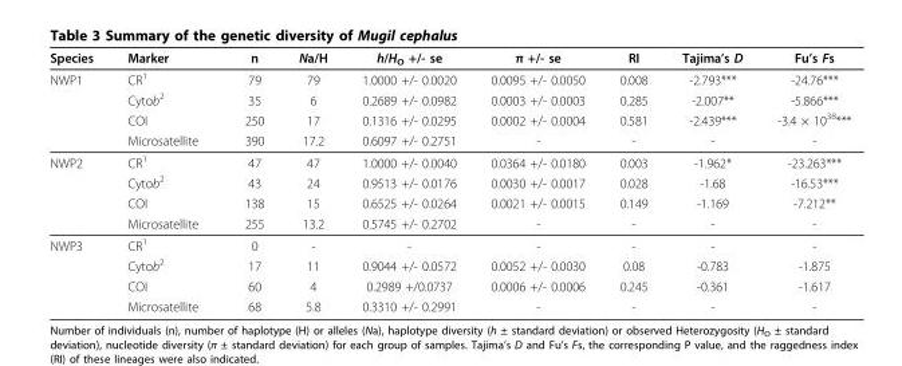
<table><thead><tr><td>Species</td><td>Marker</td><td>n</td><td>Na/H</td><td>h/H<sub>O</sub> +/- se</td><td>π +/- se</td><td>RI</td><td>Tajima’s D</td><td>Fu’s Fs</td></tr></thead><tbody><tr><td rowspan="4">NWP1</td><td>CR<sup>1</sup></td><td>79</td><td>79</td><td>1.0000 +/- 0.0020</td><td>0.0095 +/- 0.0050</td><td>0.008</td><td>-2.793***</td><td>-24.76***</td></tr><tr><td>Cytob<sup>2</sup></td><td>35</td><td>6</td><td>0.2689 +/- 0.0982</td><td>0.0003 +/- 0.0003</td><td>0.285</td><td>-2.007**</td><td>-5.866***</td></tr><tr><td>COI</td><td>250</td><td>17</td><td>0.1316 +/- 0.0295</td><td>0.0002 +/- 0.0004</td><td>0.581</td><td>-2.439***</td><td>-3.4 × 10<sup>38</sup>***</td></tr><tr><td>Microsatellite</td><td>390</td><td>17.2</td><td>0.6097 +/- 0.2751</td><td>-</td><td>-</td><td>-</td><td>-</td></tr><tr><td rowspan="4">NWP2</td><td>CR<sup>1</sup></td><td>47</td><td>47</td><td>1.0000 +/- 0.0040</td><td>0.0364 +/- 0.0180</td><td>0.003</td><td>-1.962*</td><td>-23.263***</td></tr><tr><td>Cytob<sup>2</sup></td><td>43</td><td>24</td><td>0.9513 +/- 0.0176</td><td>0.0030 +/- 0.0017</td><td>0.028</td><td>-1.68</td><td>-16.53***</td></tr><tr><td>COI</td><td>138</td><td>15</td><td>0.6525 +/- 0.0264</td><td>0.0021 +/- 0.0015</td><td>0.149</td><td>-1.169</td><td>-7.212**</td></tr><tr><td>Microsatellite</td><td>255</td><td>13.2</td><td>0.5745 +/- 0.2702</td><td>-</td><td>-</td><td>-</td><td>-</td></tr><tr><td rowspan="4">NWP3</td><td>CR<sup>1</sup></td><td>0</td><td>-</td><td>-</td><td>-</td><td>-</td><td>-</td><td>-</td></tr><tr><td>Cytob<sup>2</sup></td><td>17</td><td>11</td><td>0.9044 +/- 0.0572</td><td>0.0052 +/- 0.0030</td><td>0.08</td><td>-0.783</td><td>-1.875</td></tr><tr><td>COI</td><td>60</td><td>4</td><td>0.2989 +/0.0737</td><td>0.0006 +/- 0.0006</td><td>0.245</td><td>-0.361</td><td>-1.617</td></tr><tr><td>Microsatellite</td><td>68</td><td>5.8</td><td>0.3310 +/- 0.2991</td><td>-</td><td>-</td><td>-</td><td>-</td></tr></tbody></table>